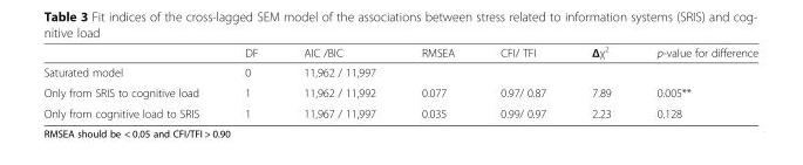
<table><thead><tr><td></td><td>DF</td><td>AIC /BIC</td><td>RMSEA</td><td>CFI/ TFI</td><td>Δχ<sup>2</sup></td><td>p-value for difference</td></tr></thead><tbody><tr><td>Saturated model</td><td>0</td><td>11,962 / 11,997</td><td></td><td></td><td></td><td></td></tr><tr><td>Only from SRIS to cognitive load</td><td>1</td><td>11,962 / 11,992</td><td>0.077</td><td>0.97/ 0.87</td><td>7.89</td><td>0.005**</td></tr><tr><td>Only from cognitive load to SRIS</td><td>1</td><td>11,967 / 11,997</td><td>0.035</td><td>0.99/ 0.97</td><td>2.23</td><td>0.128</td></tr></tbody></table>